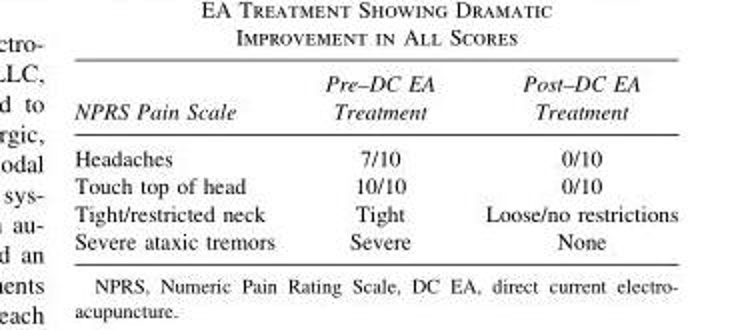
<table><thead><tr><td>NPRS Pain Scale</td><td>Pre–DC EA Treatment</td><td>Post–DC EA Treatment</td></tr></thead><tbody><tr><td>Headaches</td><td>7/10</td><td>0/10</td></tr><tr><td>Touch top of head</td><td>10/10</td><td>0/10</td></tr><tr><td>Tight/restricted neck</td><td>Tight</td><td>Loose/no restrictions</td></tr><tr><td>Severe ataxic tremors</td><td>Severe</td><td>None</td></tr></tbody></table>